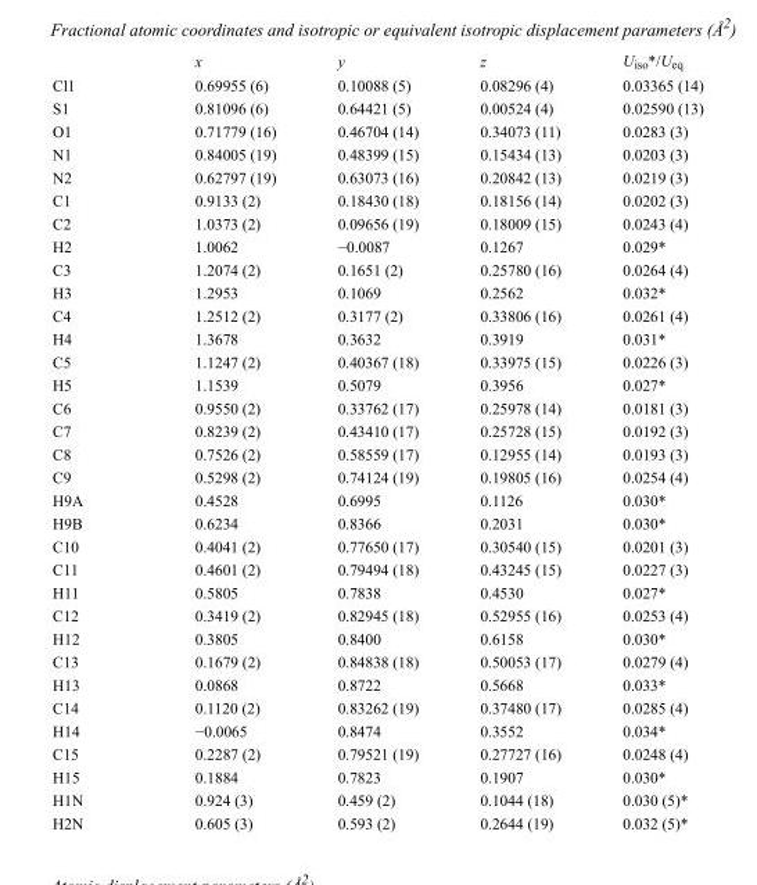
<table><thead><tr><td></td><td>x</td><td>y</td><td>z</td><td>U<sub>iso</sub>*/U<sub>eq</sub></td></tr></thead><tbody><tr><td>Cl1</td><td>0.69955 (6)</td><td>0.10088 (5)</td><td>0.08296 (4)</td><td>0.03365 (14)</td></tr><tr><td>S1</td><td>0.81096 (6)</td><td>0.64421 (5)</td><td>0.00524 (4)</td><td>0.02590 (13)</td></tr><tr><td>O1</td><td>0.71779 (16)</td><td>0.46704 (14)</td><td>0.34073 (11)</td><td>0.0283 (3)</td></tr><tr><td>N1</td><td>0.84005 (19)</td><td>0.48399 (15)</td><td>0.15434 (13)</td><td>0.0203 (3)</td></tr><tr><td>N2</td><td>0.62797 (19)</td><td>0.63073 (16)</td><td>0.20842 (13)</td><td>0.0219 (3)</td></tr><tr><td>C1</td><td>0.9133 (2)</td><td>0.18430 (18)</td><td>0.18156 (14)</td><td>0.0202 (3)</td></tr><tr><td>C2</td><td>1.0373 (2)</td><td>0.09656 (19)</td><td>0.18009 (15)</td><td>0.0243 (4)</td></tr><tr><td>H2</td><td>1.0062</td><td>−0.0087</td><td>0.1267</td><td>0.029*</td></tr><tr><td>C3</td><td>1.2074 (2)</td><td>0.1651 (2)</td><td>0.25780 (16)</td><td>0.0264 (4)</td></tr><tr><td>H3</td><td>1.2953</td><td>0.1069</td><td>0.2562</td><td>0.032*</td></tr><tr><td>C4</td><td>1.2512 (2)</td><td>0.3177 (2)</td><td>0.33806 (16)</td><td>0.0261 (4)</td></tr><tr><td>H4</td><td>1.3678</td><td>0.3632</td><td>0.3919</td><td>0.031*</td></tr><tr><td>C5</td><td>1.1247 (2)</td><td>0.40367 (18)</td><td>0.33975 (15)</td><td>0.0226 (3)</td></tr><tr><td>H5</td><td>1.1539</td><td>0.5079</td><td>0.3956</td><td>0.027*</td></tr><tr><td>C6</td><td>0.9550 (2)</td><td>0.33762 (17)</td><td>0.25978 (14)</td><td>0.0181 (3)</td></tr><tr><td>C7</td><td>0.8239 (2)</td><td>0.43410 (17)</td><td>0.25728 (15)</td><td>0.0192 (3)</td></tr><tr><td>C8</td><td>0.7526 (2)</td><td>0.58559 (17)</td><td>0.12955 (14)</td><td>0.0193 (3)</td></tr><tr><td>C9</td><td>0.5298 (2)</td><td>0.74124 (19)</td><td>0.19805 (16)</td><td>0.0254 (4)</td></tr><tr><td>H9A</td><td>0.4528</td><td>0.6995</td><td>0.1126</td><td>0.030*</td></tr><tr><td>H9B</td><td>0.6234</td><td>0.8366</td><td>0.2031</td><td>0.030*</td></tr><tr><td>C10</td><td>0.4041 (2)</td><td>0.77650 (17)</td><td>0.30540 (15)</td><td>0.0201 (3)</td></tr><tr><td>C11</td><td>0.4601 (2)</td><td>0.79494 (18)</td><td>0.43245 (15)</td><td>0.0227 (3)</td></tr><tr><td>H11</td><td>0.5805</td><td>0.7838</td><td>0.4530</td><td>0.027*</td></tr><tr><td>C12</td><td>0.3419 (2)</td><td>0.82945 (18)</td><td>0.52955 (16)</td><td>0.0253 (4)</td></tr><tr><td>H12</td><td>0.3805</td><td>0.8400</td><td>0.6158</td><td>0.030*</td></tr><tr><td>C13</td><td>0.1679 (2)</td><td>0.84838 (18)</td><td>0.50053 (17)</td><td>0.0279 (4)</td></tr><tr><td>H13</td><td>0.0868</td><td>0.8722</td><td>0.5668</td><td>0.033*</td></tr><tr><td>C14</td><td>0.1120 (2)</td><td>0.83262 (19)</td><td>0.37480 (17)</td><td>0.0285 (4)</td></tr><tr><td>H14</td><td>−0.0065</td><td>0.8474</td><td>0.3552</td><td>0.034*</td></tr><tr><td>C15</td><td>0.2287 (2)</td><td>0.79521 (19)</td><td>0.27727 (16)</td><td>0.0248 (4)</td></tr><tr><td>H15</td><td>0.1884</td><td>0.7823</td><td>0.1907</td><td>0.030*</td></tr><tr><td>H1N</td><td>0.924 (3)</td><td>0.459 (2)</td><td>0.1044 (18)</td><td>0.030 (5)*</td></tr><tr><td>H2N</td><td>0.605 (3)</td><td>0.593 (2)</td><td>0.2644 (19)</td><td>0.032 (5)*</td></tr></tbody></table>